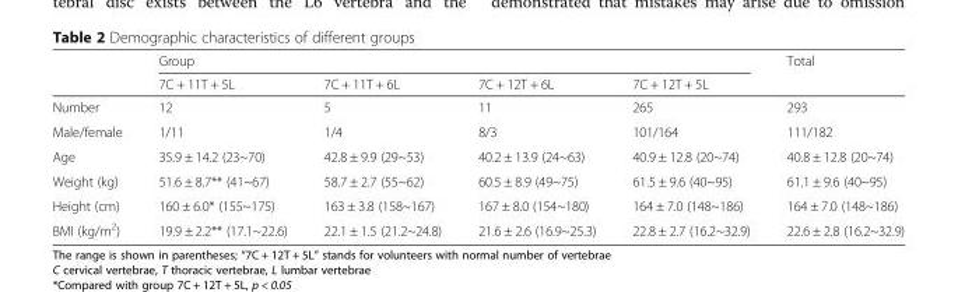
<table><thead><tr><td rowspan="2"></td><td colspan="4">Group</td><td rowspan="2">Total</td></tr><tr><td>7C + 11T + 5L</td><td>7C + 11T + 6L</td><td>7C + 12T + 6L</td><td>7C + 12T + 5L</td></tr></thead><tbody><tr><td>Number</td><td>12</td><td>5</td><td>11</td><td>265</td><td>293</td></tr><tr><td>Male/female</td><td>1/11</td><td>1/4</td><td>8/3</td><td>101/164</td><td>111/182</td></tr><tr><td>Age</td><td>35.9 ± 14.2 (23~70)</td><td>42.8 ± 9.9 (29~53)</td><td>40.2 ± 13.9 (24~63)</td><td>40.9 ± 12.8 (20~74)</td><td>40.8 ± 12.8 (20~74)</td></tr><tr><td>Weight (kg)</td><td>51.6 ± 8.7** (41~67)</td><td>58.7 ± 2.7 (55~62)</td><td>60.5 ± 8.9 (49~75)</td><td>61.5 ± 9.6 (40~95)</td><td>61.1 ± 9.6 (40~95)</td></tr><tr><td>Height (cm)</td><td>160 ± 6.0* (155~175)</td><td>163 ± 3.8 (158~167)</td><td>167 ± 8.0 (154~180)</td><td>164 ± 7.0 (148~186)</td><td>164 ± 7.0 (148~186)</td></tr><tr><td>BMI (kg/m<sup>2</sup>)</td><td>19.9 ± 2.2** (17.1~22.6)</td><td>22.1 ± 1.5 (21.2~24.8)</td><td>21.6 ± 2.6 (16.9~25.3)</td><td>22.8 ± 2.7 (16.2~32.9)</td><td>22.6 ± 2.8 (16.2~32.9)</td></tr></tbody></table>